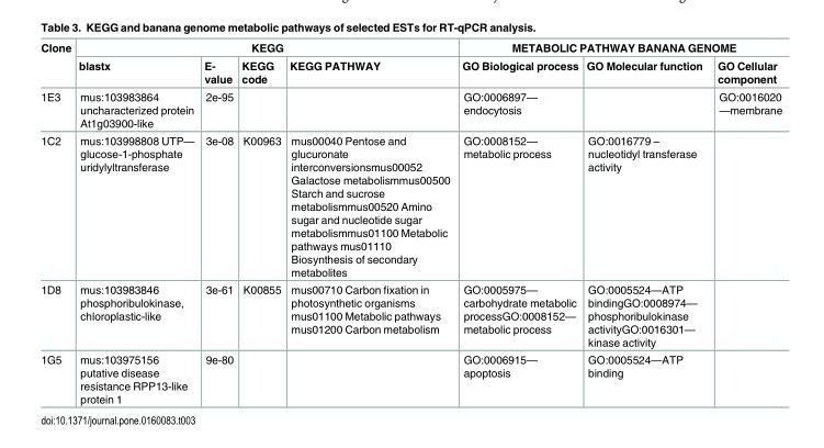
<table><thead><tr><td rowspan="2">Clone</td><td colspan="4">KEGG</td><td colspan="3">METABOLIC PATHWAY BANANA GENOME</td></tr><tr><td>blastx</td><td>E- value</td><td>KEGG code</td><td>KEGG PATHWAY</td><td>GO Biological process</td><td>GO Molecular function</td><td>GO Cellular component</td></tr></thead><tbody><tr><td>1E3</td><td>mus:103983864 uncharacterized protein At1g03900-like</td><td>2e-95</td><td></td><td></td><td>GO:0006897— endocytosis</td><td></td><td>GO:0016020 —membrane</td></tr><tr><td>1C2</td><td>mus:103998808 UTP— glucose-1-phosphate uridylyltransferase</td><td>3e-08</td><td>K00963</td><td>mus00040 Pentose and glucuronate interconversionsmus00052 Galactose metabolismmus00500 Starch and sucrose metabolismmus00520 Amino sugar and nucleotide sugar metabolismmus01100 Metabolic pathways mus01110 Biosynthesis of secondary metabolites</td><td>GO:0008152— metabolic process</td><td>GO:0016779 – nucleotidyl transferase activity</td><td></td></tr><tr><td>1D8</td><td>mus:103983846 phosphoribulokinase, chloroplastic-like</td><td>3e-61</td><td>K00855</td><td>mus00710 Carbon fixation in photosynthetic organisms mus01100 Metabolic pathways mus01200 Carbon metabolism</td><td>GO:0005975— carbohydrate metabolic processGO:0008152— metabolic process</td><td>GO:0005524—ATP bindingGO:0008974— phosphoribulokinase activityGO:0016301— kinase activity</td><td></td></tr><tr><td>1G5</td><td>mus:103975156 putative disease resistance RPP13-like protein 1</td><td>9e-80</td><td></td><td></td><td>GO:0006915— apoptosis</td><td>GO:0005524—ATP binding</td><td></td></tr></tbody></table>